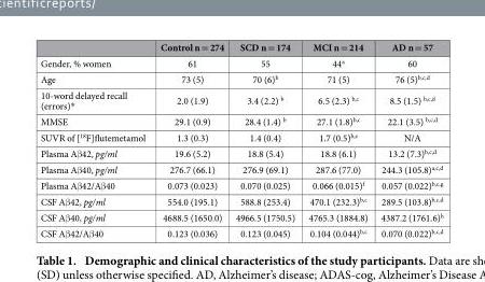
<table><thead><tr><td></td><td>Control n = 274</td><td>SCD n = 174</td><td>MCI n = 214</td><td>AD n = 57</td></tr></thead><tbody><tr><td>Gender, % women</td><td>61</td><td>55</td><td>44<sup>a</sup></td><td>60</td></tr><tr><td>Age</td><td>73 (5)</td><td>70 (6)<sup>b</sup></td><td>71 (5)</td><td>76 (5)b,c,d</td></tr><tr><td>10-word delayed recall (errors)*</td><td>2.0 (1.9)</td><td>3.4 (2.2) b</td><td>6.5 (2.3) b,c</td><td>8.5 (1.5) b,c,d</td></tr><tr><td>MMSE</td><td>29.1 (0.9)</td><td>28.4 (1.4) b</td><td>27.1 (1.8)b,c</td><td>22.1 (3.5) b,c,d</td></tr><tr><td>SUVR of [<sup>18</sup>F]flutemetamol</td><td>1.3 (0.3)</td><td>1.4 (0.4)</td><td>1.7 (0.5)b,e</td><td>N/A</td></tr><tr><td>Plasma Aβ 42, pg/ml</td><td>19.6 (5.2)</td><td>18.8 (5.4)</td><td>18.8 (6.1)</td><td>13.2 (7.3)b,c,d</td></tr><tr><td>Plasma Aβ 40, pg/ml</td><td>276.7 (66.1)</td><td>276.9 (69.1)</td><td>287.6 (77.0)</td><td>244.3 (105.8)a,c,d</td></tr><tr><td>Plasma Aβ 42/Aβ 40</td><td>0.073 (0.023)</td><td>0.070 (0.025)</td><td>0.066 (0.015)<sup>f</sup></td><td>0.057 (0.022)b,c,g</td></tr><tr><td>CSF Aβ 42, pg/ml</td><td>554.0 (195.1)</td><td>588.8 (253.4)</td><td>470.1 (232.3)b,c</td><td>289.5 (103.8)b,c,d</td></tr><tr><td>CSF Aβ 40, pg/ml</td><td>4688.5 (1650.0)</td><td>4966.5 (1750.5)</td><td>4765.3 (1884.8)</td><td>4387.2 (1761.6)<sup>h</sup></td></tr><tr><td>CSF Aβ 42/Aβ 40</td><td>0.123 (0.036)</td><td>0.123 (0.045)</td><td>0.104 (0.044)b,c</td><td>0.070 (0.022)b,c,d</td></tr></tbody></table>